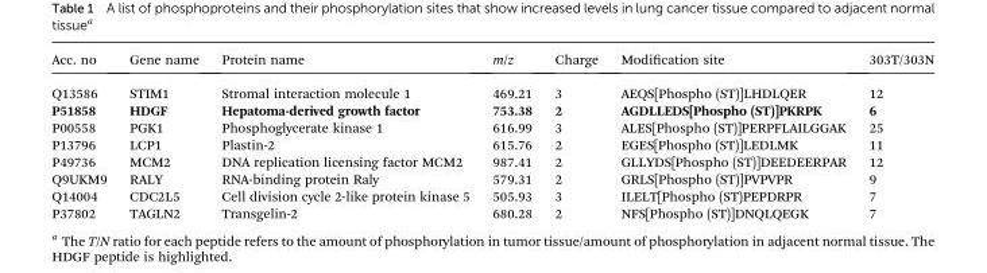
<table><thead><tr><td>Acc. no</td><td>Gene name</td><td>Protein name</td><td>m/z</td><td>Charge</td><td>Modication site</td><td>303T/303N</td></tr></thead><tbody><tr><td>Q13586</td><td>STIM1</td><td>Stromal interaction molecule 1</td><td>469.21</td><td>3</td><td>AEQS[Phospho (ST)]LHDLQER</td><td>12</td></tr><tr><td>P51858</td><td>HDGF</td><td>Hepatoma-derived growth factor</td><td>753.38</td><td>2</td><td>AGDLLEDS[Phospho (ST)]PKRPK</td><td>6</td></tr><tr><td>P00558</td><td>PGK1</td><td>Phosphoglycerate kinase 1</td><td>616.99</td><td>3</td><td>ALES[Phospho (ST)]PERPFLAILGGAK</td><td>25</td></tr><tr><td>P13796</td><td>LCP1</td><td>Plastin-2</td><td>615.76</td><td>2</td><td>EGES[Phospho (ST)]LEDLMK</td><td>11</td></tr><tr><td>P49736</td><td>MCM2</td><td>DNA replication licensing factor MCM2</td><td>987.41</td><td>2</td><td>GLLYDS[Phospho (ST)]DEEDEERPAR</td><td>12</td></tr><tr><td>Q9UKM9</td><td>RALY</td><td>RNA-binding protein Raly</td><td>579.31</td><td>2</td><td>GRLS[Phospho (ST)]PVPVPR</td><td>9</td></tr><tr><td>Q14004</td><td>CDC2L5</td><td>Cell division cycle 2-like protein kinase 5</td><td>505.93</td><td>3</td><td>ILELT[Phospho (ST)PEPDRPR</td><td>7</td></tr><tr><td>P37802</td><td>TAGLN2</td><td>Transgelin-2</td><td>680.28</td><td>2</td><td>NFS[Phospho (ST)]DNQLQEGK</td><td>7</td></tr></tbody></table>